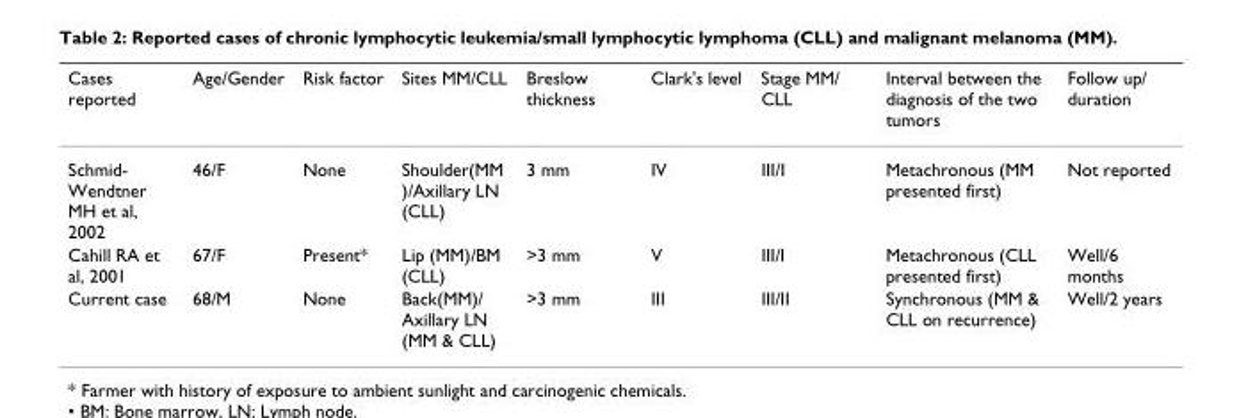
<table><thead><tr><td>Cases reported</td><td>Age/Gender</td><td>Risk factor</td><td>Sites MM/CLL</td><td>Breslow thickness</td><td>Clark&#x27;s level</td><td>Stage MM/ CLL</td><td>Interval between the diagnosis of the two tumors</td><td>Follow up/ duration</td></tr></thead><tbody><tr><td>Schmid- Wendtner MH et al, 2002</td><td>46/F</td><td>None</td><td>Shoulder(MM )/Axillary LN (CLL)</td><td>3 mm</td><td>IV</td><td>III/I</td><td>Metachronous (MM presented first)</td><td>Not reported</td></tr><tr><td>Cahill RA et al, 2001</td><td>67/F</td><td>Present*</td><td>Lip (MM)/BM (CLL)</td><td>&gt;3 mm</td><td>V</td><td>III/I</td><td>Metachronous (CLL presented first)</td><td>Well/6 months</td></tr><tr><td>Current case</td><td>68/M</td><td>None</td><td>Back(MM)/ Axillary LN (MM &amp; CLL)</td><td>&gt;3 mm</td><td>III</td><td>III/II</td><td>Synchronous (MM &amp; CLL on recurrence)</td><td>Well/2 years</td></tr></tbody></table>